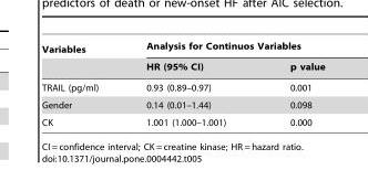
<table><thead><tr><td rowspan="2">Variables</td><td colspan="2">Analysis for Continuos Variables</td></tr><tr><td>HR (95% CI)</td><td>p value</td></tr></thead><tbody><tr><td>TRAIL (pg/ml)</td><td>0.93 (0.89–0.97)</td><td>0.001</td></tr><tr><td>Gender</td><td>0.14 (0.01–1.44)</td><td>0.098</td></tr><tr><td>CK</td><td>1.001 (1.000–1.001)</td><td>0.000</td></tr></tbody></table>